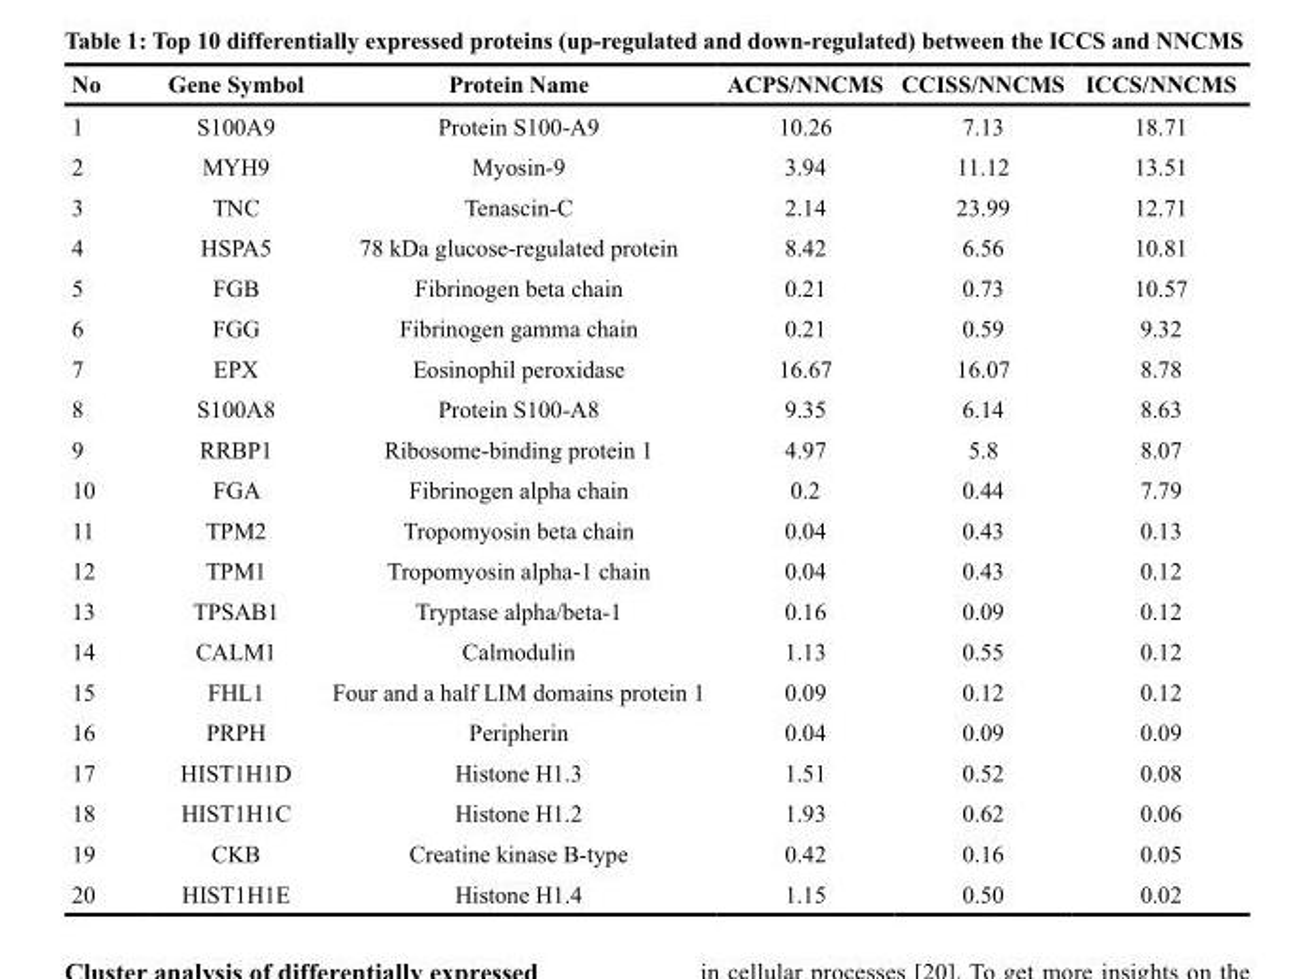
<table><thead><tr><td>No</td><td>Gene Symbol</td><td>Protein Name</td><td>ACPS/NNCMS</td><td>CCISS/NNCMS</td><td>ICCS/NNCMS</td></tr></thead><tbody><tr><td>1</td><td>S100A9</td><td>Protein S100-A9</td><td>10.26</td><td>7.13</td><td>18.71</td></tr><tr><td>2</td><td>MYH9</td><td>Myosin-9</td><td>3.94</td><td>11.12</td><td>13.51</td></tr><tr><td>3</td><td>TNC</td><td>Tenascin-C</td><td>2.14</td><td>23.99</td><td>12.71</td></tr><tr><td>4</td><td>HSPA5</td><td>78 kDa glucose-regulated protein</td><td>8.42</td><td>6.56</td><td>10.81</td></tr><tr><td>5</td><td>FGB</td><td>Fibrinogen beta chain</td><td>0.21</td><td>0.73</td><td>10.57</td></tr><tr><td>6</td><td>FGG</td><td>Fibrinogen gamma chain</td><td>0.21</td><td>0.59</td><td>9.32</td></tr><tr><td>7</td><td>EPX</td><td>Eosinophil peroxidase</td><td>16.67</td><td>16.07</td><td>8.78</td></tr><tr><td>8</td><td>S100A8</td><td>Protein S100-A8</td><td>9.35</td><td>6.14</td><td>8.63</td></tr><tr><td>9</td><td>RRBP1</td><td>Ribosome-binding protein 1</td><td>4.97</td><td>5.8</td><td>8.07</td></tr><tr><td>10</td><td>FGA</td><td>Fibrinogen alpha chain</td><td>0.2</td><td>0.44</td><td>7.79</td></tr><tr><td>11</td><td>TPM2</td><td>Tropomyosin beta chain</td><td>0.04</td><td>0.43</td><td>0.13</td></tr><tr><td>12</td><td>TPM1</td><td>Tropomyosin alpha-1 chain</td><td>0.04</td><td>0.43</td><td>0.12</td></tr><tr><td>13</td><td>TPSAB1</td><td>Tryptase alpha/beta-1</td><td>0.16</td><td>0.09</td><td>0.12</td></tr><tr><td>14</td><td>CALM1</td><td>Calmodulin</td><td>1.13</td><td>0.55</td><td>0.12</td></tr><tr><td>15</td><td>FHL1</td><td>Four and a half LIM domains protein 1</td><td>0.09</td><td>0.12</td><td>0.12</td></tr><tr><td>16</td><td>PRPH</td><td>Peripherin</td><td>0.04</td><td>0.09</td><td>0.09</td></tr><tr><td>17</td><td>HIST1H1D</td><td>Histone H1.3</td><td>1.51</td><td>0.52</td><td>0.08</td></tr><tr><td>18</td><td>HIST1H1C</td><td>Histone H1.2</td><td>1.93</td><td>0.62</td><td>0.06</td></tr><tr><td>19</td><td>CKB</td><td>Creatine kinase B-type</td><td>0.42</td><td>0.16</td><td>0.05</td></tr><tr><td>20</td><td>HIST1H1E</td><td>Histone H1.4</td><td>1.15</td><td>0.50</td><td>0.02</td></tr></tbody></table>